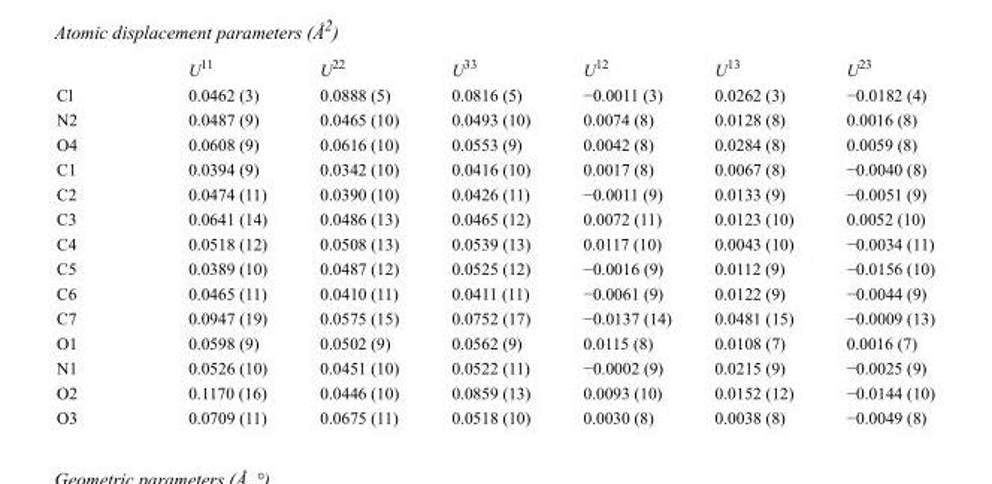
<table><thead><tr><td></td><td>U<sup>11</sup></td><td>U<sup>22</sup></td><td>U<sup>33</sup></td><td>U<sup>12</sup></td><td>U<sup>13</sup></td><td>U<sup>23</sup></td></tr></thead><tbody><tr><td>Cl</td><td>0.0462 (3)</td><td>0.0888 (5)</td><td>0.0816 (5)</td><td>−0.0011 (3)</td><td>0.0262 (3)</td><td>−0.0182 (4)</td></tr><tr><td>N2</td><td>0.0487 (9)</td><td>0.0465 (10)</td><td>0.0493 (10)</td><td>0.0074 (8)</td><td>0.0128 (8)</td><td>0.0016 (8)</td></tr><tr><td>O4</td><td>0.0608 (9)</td><td>0.0616 (10)</td><td>0.0553 (9)</td><td>0.0042 (8)</td><td>0.0284 (8)</td><td>0.0059 (8)</td></tr><tr><td>C1</td><td>0.0394 (9)</td><td>0.0342 (10)</td><td>0.0416 (10)</td><td>0.0017 (8)</td><td>0.0067 (8)</td><td>−0.0040 (8)</td></tr><tr><td>C2</td><td>0.0474 (11)</td><td>0.0390 (10)</td><td>0.0426 (11)</td><td>−0.0011 (9)</td><td>0.0133 (9)</td><td>−0.0051 (9)</td></tr><tr><td>C3</td><td>0.0641 (14)</td><td>0.0486 (13)</td><td>0.0465 (12)</td><td>0.0072 (11)</td><td>0.0123 (10)</td><td>0.0052 (10)</td></tr><tr><td>C4</td><td>0.0518 (12)</td><td>0.0508 (13)</td><td>0.0539 (13)</td><td>0.0117 (10)</td><td>0.0043 (10)</td><td>−0.0034 (11)</td></tr><tr><td>C5</td><td>0.0389 (10)</td><td>0.0487 (12)</td><td>0.0525 (12)</td><td>−0.0016 (9)</td><td>0.0112 (9)</td><td>−0.0156 (10)</td></tr><tr><td>C6</td><td>0.0465 (11)</td><td>0.0410 (11)</td><td>0.0411 (11)</td><td>−0.0061 (9)</td><td>0.0122 (9)</td><td>−0.0044 (9)</td></tr><tr><td>C7</td><td>0.0947 (19)</td><td>0.0575 (15)</td><td>0.0752 (17)</td><td>−0.0137 (14)</td><td>0.0481 (15)</td><td>−0.0009 (13)</td></tr><tr><td>O1</td><td>0.0598 (9)</td><td>0.0502 (9)</td><td>0.0562 (9)</td><td>0.0115 (8)</td><td>0.0108 (7)</td><td>0.0016 (7)</td></tr><tr><td>N1</td><td>0.0526 (10)</td><td>0.0451 (10)</td><td>0.0522 (11)</td><td>−0.0002 (9)</td><td>0.0215 (9)</td><td>−0.0025 (9)</td></tr><tr><td>O2</td><td>0.1170 (16)</td><td>0.0446 (10)</td><td>0.0859 (13)</td><td>0.0093 (10)</td><td>0.0152 (12)</td><td>−0.0144 (10)</td></tr><tr><td>O3</td><td>0.0709 (11)</td><td>0.0675 (11)</td><td>0.0518 (10)</td><td>0.0030 (8)</td><td>0.0038 (8)</td><td>−0.0049 (8)</td></tr></tbody></table>